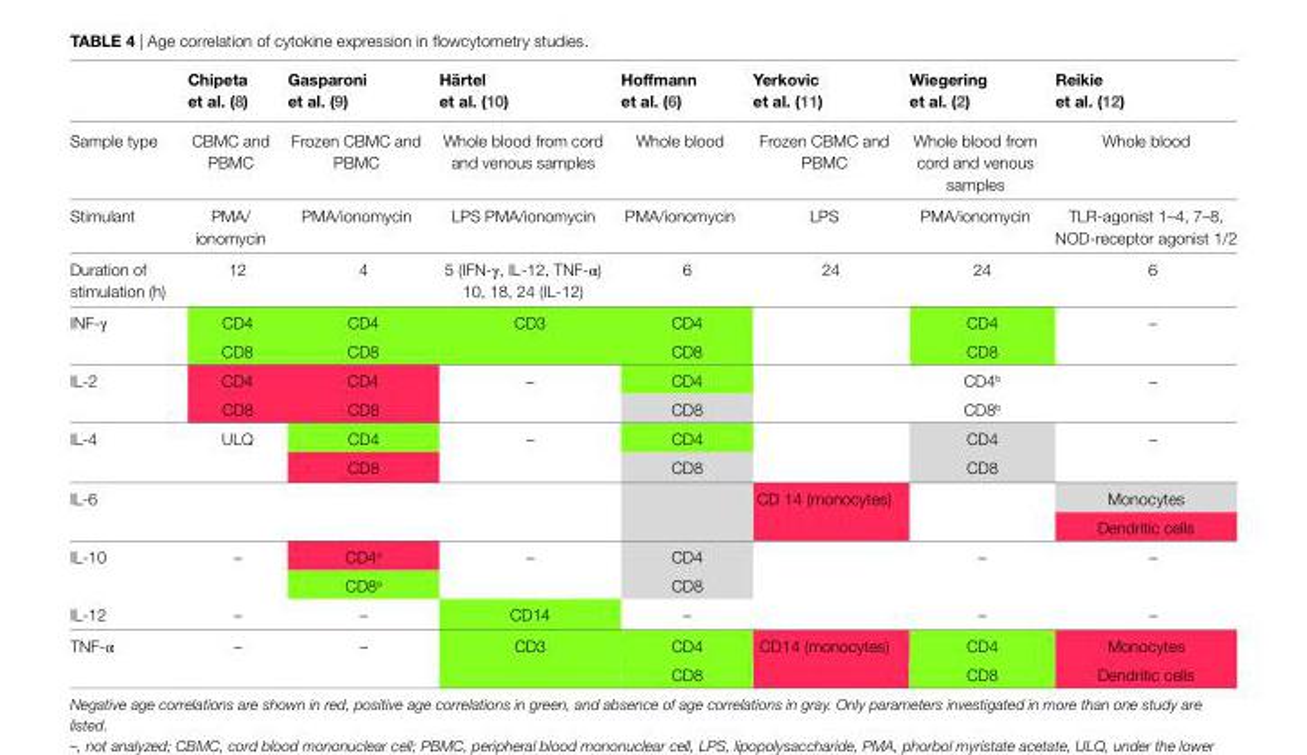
<table><thead><tr><td></td><td>chipeta et al. (8)</td><td>Gasparoni et al. (9)</td><td>Härtel et al. (10)</td><td>Hoffmann et al. (6)</td><td>yerkovic et al. (11)</td><td>wiegering et al. (2)</td><td>Reikie et al. (12)</td></tr></thead><tbody><tr><td>Sample type</td><td>CBMC and PBMC</td><td>Frozen CBMC and PBMC</td><td>Whole blood from cord and venous samples</td><td>Whole blood</td><td>Frozen CBMC and PBMC</td><td>Whole blood from cord and venous samples</td><td>Whole blood</td></tr><tr><td>Stimulant</td><td>PMA/ ionomycin</td><td>PMA/ionomycin</td><td>LPS PMA/ionomycin</td><td>PMA/ionomycin</td><td>LPS</td><td>PMA/ionomycin</td><td>TLR-agonist 1–4, 7–8, NOD-receptor agonist 1/2</td></tr><tr><td>Duration of stimulation (h)</td><td>12</td><td>4</td><td>5 (IFN-γ, IL-12, TNF-α) 10, 18, 24 (IL-12)</td><td>6</td><td>24</td><td>24</td><td>6</td></tr><tr><td rowspan="2">INF-γ</td><td>CD4</td><td>CD4</td><td rowspan="2">CD3</td><td>CD4</td><td></td><td>CD4</td><td rowspan="2">–</td></tr><tr><td>CD8</td><td>CD8</td><td>CD8</td><td></td><td>CD8</td></tr><tr><td rowspan="2">IL-2</td><td>CD4</td><td>CD4</td><td rowspan="2">–</td><td>CD4</td><td></td><td>CD4b</td><td rowspan="2">–</td></tr><tr><td>CD8</td><td>CD8</td><td>CD8</td><td></td><td>CD8b</td></tr><tr><td rowspan="2">IL-4</td><td rowspan="2">ULQ</td><td>CD4</td><td rowspan="2">–</td><td>CD4</td><td></td><td>CD4</td><td rowspan="2">–</td></tr><tr><td>CD8</td><td>CD8</td><td></td><td>CD8</td></tr><tr><td rowspan="2">IL-6</td><td rowspan="2"></td><td rowspan="2"></td><td rowspan="2"></td><td rowspan="2"></td><td rowspan="2">CD 14 (monocytes)</td><td rowspan="2"></td><td>Monocytes</td></tr><tr><td>Dendritic cells</td></tr><tr><td rowspan="2">IL-10</td><td rowspan="2">–</td><td>CD4a</td><td rowspan="2">–</td><td>CD4</td><td></td><td rowspan="2">–</td><td rowspan="2">–</td></tr><tr><td>CD8a</td><td>CD8</td><td></td></tr><tr><td>IL-12</td><td>–</td><td>–</td><td>CD14</td><td>–</td><td></td><td>–</td><td>–</td></tr><tr><td rowspan="2">TNF-α</td><td rowspan="2">–</td><td rowspan="2">–</td><td rowspan="2">CD3</td><td>CD4</td><td rowspan="2">CD14 (monocytes)</td><td>CD4</td><td>Monocytes</td></tr><tr><td>CD8</td><td>CD8</td><td>Dendritic cells</td></tr></tbody></table>